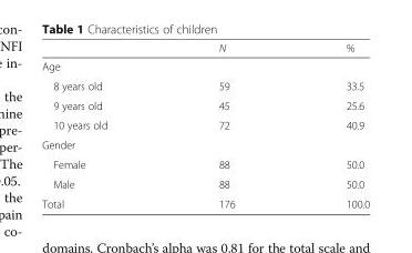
<table><thead><tr><td></td><td>N</td><td>%</td></tr></thead><tbody><tr><td colspan="3">Age</td></tr><tr><td>8 years old</td><td>59</td><td>33.5</td></tr><tr><td>9 years old</td><td>45</td><td>25.6</td></tr><tr><td>10 years old</td><td>72</td><td>40.9</td></tr><tr><td colspan="3">Gender</td></tr><tr><td>Female</td><td>88</td><td>50.0</td></tr><tr><td>Male</td><td>88</td><td>50.0</td></tr><tr><td>Total</td><td>176</td><td>100.0</td></tr></tbody></table>